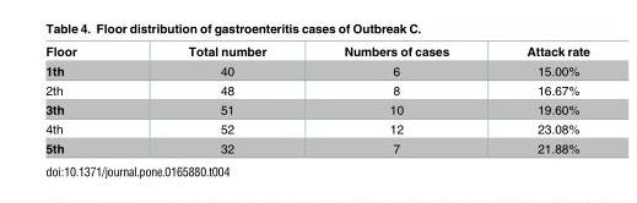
<table><thead><tr><td>Floor</td><td>Total number</td><td>Numbers of cases</td><td>Attack rate</td></tr></thead><tbody><tr><td>1th</td><td>40</td><td>6</td><td>15.00%</td></tr><tr><td>2th</td><td>48</td><td>8</td><td>16.67%</td></tr><tr><td>3th</td><td>51</td><td>10</td><td>19.60%</td></tr><tr><td>4th</td><td>52</td><td>12</td><td>23.08%</td></tr><tr><td>5th</td><td>32</td><td>7</td><td>21.88%</td></tr></tbody></table>